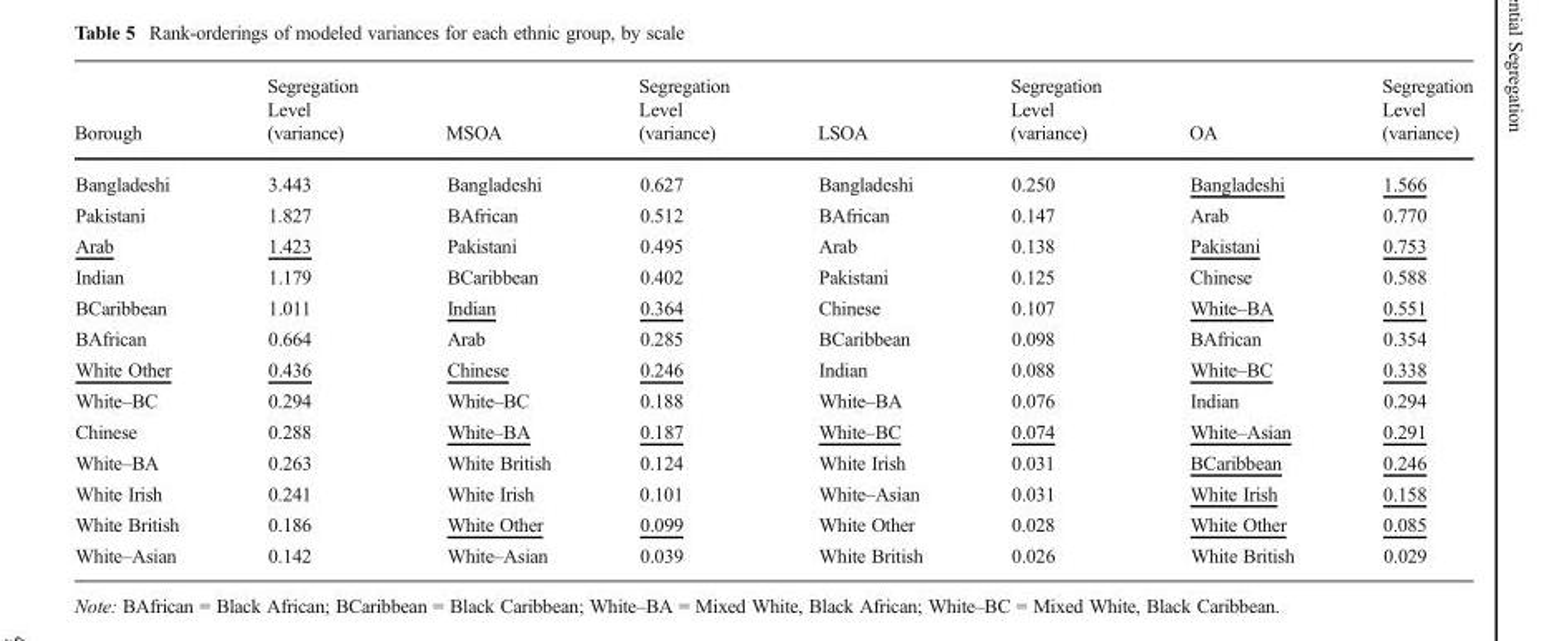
<table><thead><tr><td>Borough</td><td>Segregation Level (variance)</td><td>MSOA</td><td>Segregation Level (variance)</td><td>LSOA</td><td>Segregation Level (variance)</td><td>OA</td><td>Segregation Level (variance)</td></tr></thead><tbody><tr><td>Bangladeshi</td><td>3.443</td><td>Bangladeshi</td><td>0.627</td><td>Bangladeshi</td><td>0.250</td><td>Bangladeshi</td><td>1.566</td></tr><tr><td>Pakistani</td><td>1.827</td><td>BAfrican</td><td>0.512</td><td>BAfrican</td><td>0.147</td><td>Arab</td><td>0.770</td></tr><tr><td>Arab</td><td>1.423</td><td>Pakistani</td><td>0.495</td><td>Arab</td><td>0.138</td><td>Pakistani</td><td>0.753</td></tr><tr><td>Indian</td><td>1.179</td><td>BCaribbean</td><td>0.402</td><td>Pakistani</td><td>0.125</td><td>Chinese</td><td>0.588</td></tr><tr><td>BCaribbean</td><td>1.011</td><td>Indian</td><td>0.364</td><td>Chinese</td><td>0.107</td><td>White–BA</td><td>0.551</td></tr><tr><td>BAfrican</td><td>0.664</td><td>Arab</td><td>0.285</td><td>BCaribbean</td><td>0.098</td><td>BAfrican</td><td>0.354</td></tr><tr><td>White Other</td><td>0.436</td><td>Chinese</td><td>0.246</td><td>Indian</td><td>0.088</td><td>White–BC</td><td>0.338</td></tr><tr><td>White–BC</td><td>0.294</td><td>White–BC</td><td>0.188</td><td>White–BA</td><td>0.076</td><td>Indian</td><td>0.294</td></tr><tr><td>Chinese</td><td>0.288</td><td>White–BA</td><td>0.187</td><td>White–BC</td><td>0.074</td><td>White–Asian</td><td>0.291</td></tr><tr><td>White–BA</td><td>0.263</td><td>White British</td><td>0.124</td><td>White Irish</td><td>0.031</td><td>BCaribbean</td><td>0.246</td></tr><tr><td>White Irish</td><td>0.241</td><td>White Irish</td><td>0.101</td><td>White–Asian</td><td>0.031</td><td>White Irish</td><td>0.158</td></tr><tr><td>White British</td><td>0.186</td><td>White Other</td><td>0.099</td><td>White Other</td><td>0.028</td><td>White Other</td><td>0.085</td></tr><tr><td>White–Asian</td><td>0.142</td><td>White–Asian</td><td>0.039</td><td>White British</td><td>0.026</td><td>White British</td><td>0.029</td></tr></tbody></table>